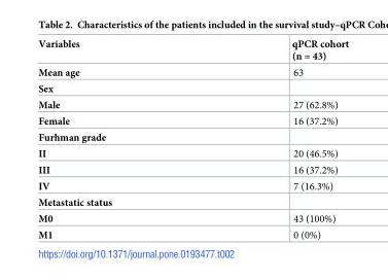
<table><thead><tr><td>Variables</td><td>qPCR cohort (n = 43)</td></tr></thead><tbody><tr><td>Mean age</td><td>63</td></tr><tr><td colspan="2">Sex</td></tr><tr><td>Male</td><td>27 (62.8%)</td></tr><tr><td>Female</td><td>16 (37.2%)</td></tr><tr><td colspan="2">Furhman grade</td></tr><tr><td>II</td><td>20 (46.5%)</td></tr><tr><td>III</td><td>16 (37.2%)</td></tr><tr><td>IV</td><td>7 (16.3%)</td></tr><tr><td colspan="2">Metastatic status</td></tr><tr><td>M0</td><td>43 (100%)</td></tr><tr><td>M1</td><td>0 (0%)</td></tr></tbody></table>